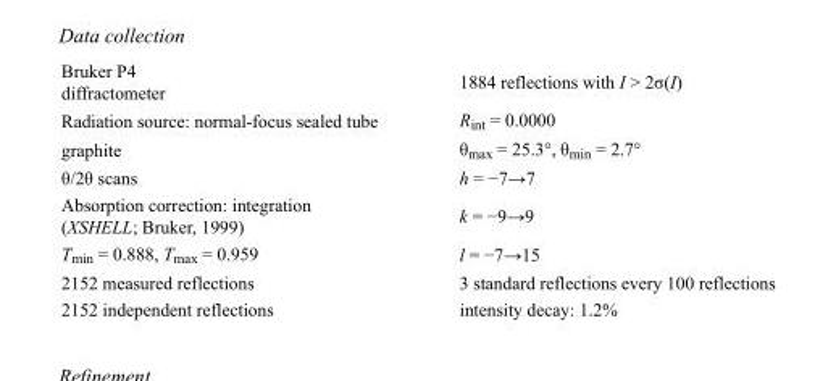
<table><tbody><tr><td>Bruker P4 diffractometer</td><td>1884 reflections with I &gt; 2σ(I)</td></tr><tr><td>Radiation source: normal-focus sealed tube</td><td>R<sub>int</sub> = 0.0000</td></tr><tr><td>graphite</td><td>θ<sub>max</sub> = 25.3°, θ<sub>min</sub> = 2.7°</td></tr><tr><td>θ/2θ scans</td><td>h = −7→7</td></tr><tr><td>Absorption correction: integration (XSHELL; Bruker, 1999)</td><td>k = −9→9</td></tr><tr><td>T<sub>min</sub> = 0.888, T<sub>max</sub> = 0.959</td><td>l = −7→15</td></tr><tr><td>2152 measured reflections</td><td>3 standard reflections every 100 reflections</td></tr><tr><td>2152 independent reflections</td><td>intensity decay: 1.2%</td></tr></tbody></table>